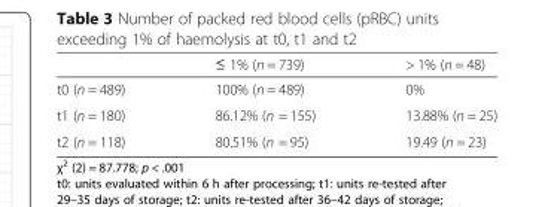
<table><thead><tr><td></td><td>≤ 1% (n = 739)</td><td>&gt; 1% (n = 48)</td></tr></thead><tbody><tr><td>t0 (n = 489)</td><td>100% (n = 489)</td><td>0%</td></tr><tr><td>t1 (n = 180)</td><td>86.12% (n = 155)</td><td>13.88% (n = 25)</td></tr><tr><td>t2 (n = 118)</td><td>80.51% (n = 95)</td><td>19.49 (n = 23)</td></tr></tbody></table>